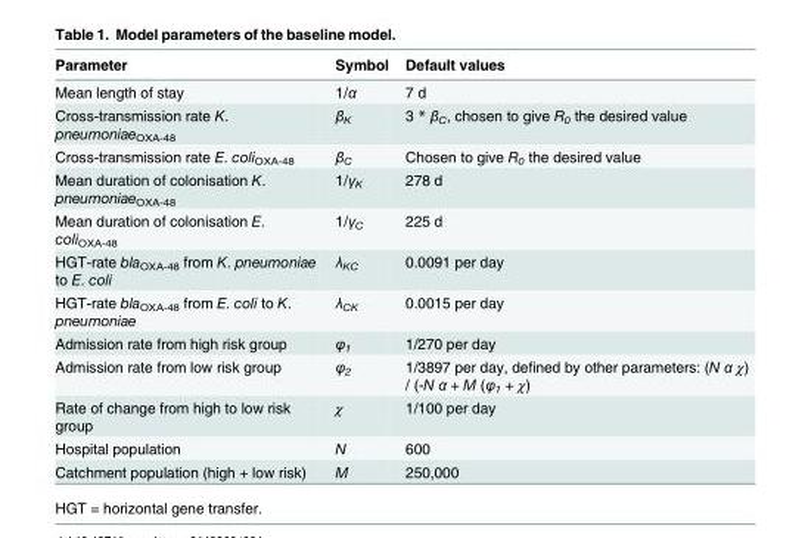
<table><thead><tr><td>Parameter</td><td>Symbol</td><td>Default values</td></tr></thead><tbody><tr><td>Mean length of stay</td><td>1/α</td><td>7 d</td></tr><tr><td>Cross-transmission rate K. pneumoniae<sub>OXA-48</sub></td><td>β<sub>K</sub></td><td>3 * β<sub>C</sub>, chosen to give R<sub>0</sub> the desired value</td></tr><tr><td>Cross-transmission rate E. coli<sub>OXA-48</sub></td><td>β<sub>C</sub></td><td>Chosen to give R<sub>0</sub> the desired value</td></tr><tr><td>Mean duration of colonisation K. pneumoniae<sub>OXA-48</sub></td><td>1/γ<sub>K</sub></td><td>278 d</td></tr><tr><td>Mean duration of colonisation E. coli<sub>OXA-48</sub></td><td>1/γ<sub>C</sub></td><td>225 d</td></tr><tr><td>HGT-rate bla<sub>OXA-48</sub> from K. pneumoniae to E. coli</td><td>λ<sub>KC</sub></td><td>0.0091 per day</td></tr><tr><td>HGT-rate bla<sub>OXA-48</sub> from E. coli to K. pneumoniae</td><td>λ<sub>CK</sub></td><td>0.0015 per day</td></tr><tr><td>Admission rate from high risk group</td><td>φ<sub>1</sub></td><td>1/270 per day</td></tr><tr><td>Admission rate from low risk group</td><td>φ<sub>2</sub></td><td>1/3897 per day, defined by other parameters: (N α χ) / (-N α + M (φ<sub>1</sub> + χ)</td></tr><tr><td>Rate of change from high to low risk group</td><td>χ</td><td>1/100 per day</td></tr><tr><td>Hospital population</td><td>N</td><td>600</td></tr><tr><td>Catchment population (high + low risk)</td><td>M</td><td>250,000</td></tr></tbody></table>